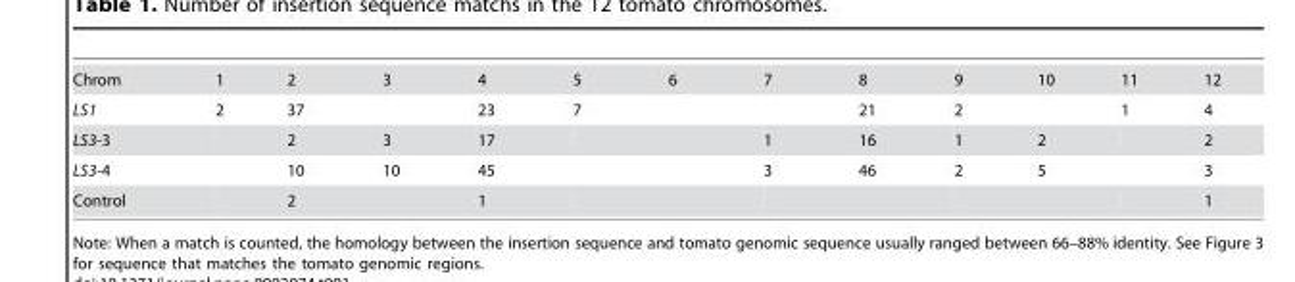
<table><tbody><tr><td>Chrom</td><td>1</td><td>2</td><td>3</td><td>4</td><td>5</td><td>6</td><td>7</td><td>8</td><td>9</td><td>10</td><td>11</td><td>12</td></tr><tr><td>LS1</td><td>2</td><td>37</td><td></td><td>23</td><td>7</td><td></td><td></td><td>21</td><td>2</td><td></td><td>1</td><td>4</td></tr><tr><td>LS3-3</td><td></td><td>2</td><td>3</td><td>17</td><td></td><td></td><td>1</td><td>16</td><td>1</td><td>2</td><td></td><td>2</td></tr><tr><td>LS3-4</td><td></td><td>10</td><td>10</td><td>45</td><td></td><td></td><td>3</td><td>46</td><td>2</td><td>5</td><td></td><td>3</td></tr><tr><td>Control</td><td></td><td>2</td><td></td><td>1</td><td></td><td></td><td></td><td></td><td></td><td></td><td></td><td>1</td></tr></tbody></table>